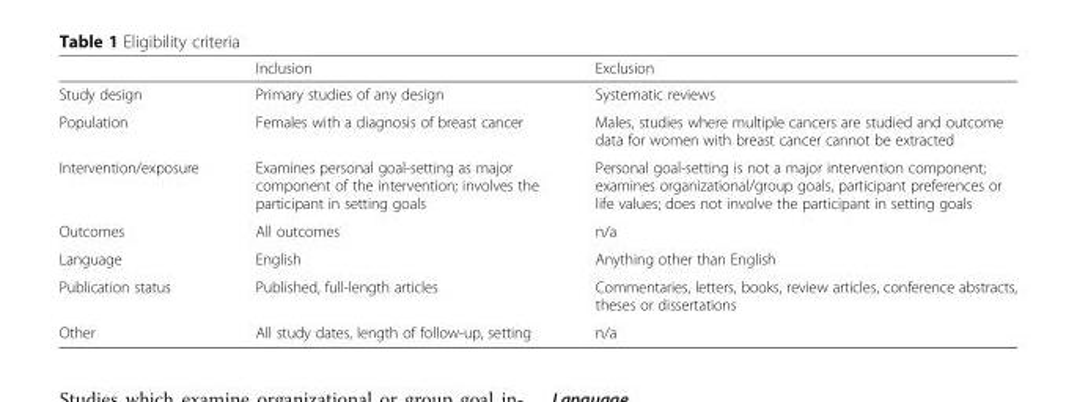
<table><thead><tr><td></td><td>Inclusion</td><td>Exclusion</td></tr></thead><tbody><tr><td>Study design</td><td>Primary studies of any design</td><td>Systematic reviews</td></tr><tr><td>Population</td><td>Females with a diagnosis of breast cancer</td><td>Males, studies where multiple cancers are studied and outcome data for women with breast cancer cannot be extracted</td></tr><tr><td>Intervention/exposure</td><td>Examines personal goal-setting as major component of the intervention; involves the participant in setting goals</td><td>Personal goal-setting is not a major intervention component; examines organizational/group goals, participant preferences or life values; does not involve the participant in setting goals</td></tr><tr><td>Outcomes</td><td>All outcomes</td><td>n/a</td></tr><tr><td>Language</td><td>English</td><td>Anything other than English</td></tr><tr><td>Publication status</td><td>Published, full-length articles</td><td>Commentaries, letters, books, review articles, conference abstracts, theses or dissertations</td></tr><tr><td>Other</td><td>All study dates, length of follow-up, setting</td><td>n/a</td></tr></tbody></table>